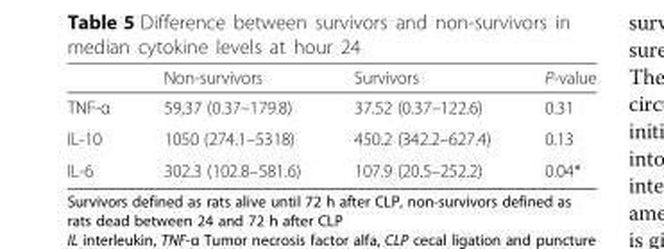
<table><thead><tr><td></td><td>Non-survivors</td><td>Survivors</td><td>P-value</td></tr></thead><tbody><tr><td>TNF-α</td><td>59,37 (0.37–179.8)</td><td>37.52 (0.37–122.6)</td><td>0.31</td></tr><tr><td>IL-10</td><td>1050 (274.1–5318)</td><td>450.2 (342.2–627.4)</td><td>0.13</td></tr><tr><td>IL-6</td><td>302.3 (102.8–581.6)</td><td>107.9 (20.5–252.2)</td><td>0.04*</td></tr></tbody></table>